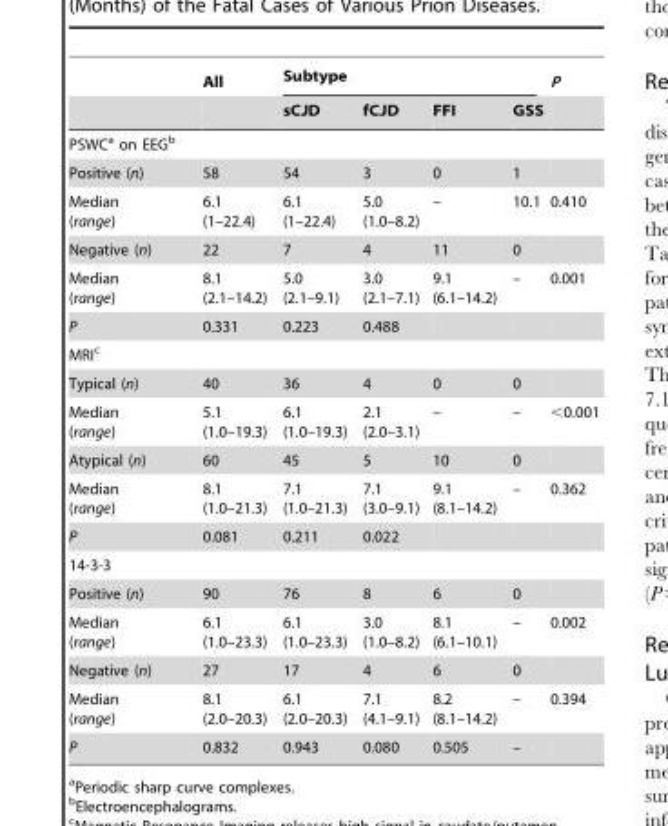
<table><thead><tr><td rowspan="2"></td><td rowspan="2">All</td><td colspan="4">Subtype</td><td rowspan="2">P</td></tr><tr><td>sCJD</td><td>fCJD</td><td>FFI</td><td>GSS</td></tr></thead><tbody><tr><td colspan="7">PSWC<sup>a</sup> on EEG<sup>b</sup></td></tr><tr><td>Positive (n)</td><td>58</td><td>54</td><td>3</td><td>0</td><td>1</td><td></td></tr><tr><td>Median (range)</td><td>6.1 (1–22.4)</td><td>6.1 (1–22.4)</td><td>5.0 (1.0–8.2)</td><td>–</td><td>10.1</td><td>0.410</td></tr><tr><td>Negative (n)</td><td>22</td><td>7</td><td>4</td><td>11</td><td>0</td><td></td></tr><tr><td>Median (range)</td><td>8.1 (2.1–14.2)</td><td>5.0 (2.1–9.1)</td><td>3.0 (2.1–7.1)</td><td>9.1 (6.1–14.2)</td><td>–</td><td>0.001</td></tr><tr><td>P</td><td>0.331</td><td>0.223</td><td>0.488</td><td></td><td></td><td></td></tr><tr><td colspan="7">MRI<sup>c</sup></td></tr><tr><td>Typical (n)</td><td>40</td><td>36</td><td>4</td><td>0</td><td>0</td><td></td></tr><tr><td>Median (range)</td><td>5.1 (1.0–19.3)</td><td>6.1 (1.0–19.3)</td><td>2.1 (2.0–3.1)</td><td>–</td><td>–</td><td>&lt;0.001</td></tr><tr><td>Atypical (n)</td><td>60</td><td>45</td><td>5</td><td>10</td><td>0</td><td></td></tr><tr><td>Median (range)</td><td>8.1 (1.0–21.3)</td><td>7.1 (1.0–21.3)</td><td>7.1 (3.0–9.1)</td><td>9.1 (8.1–14.2)</td><td>–</td><td>0.362</td></tr><tr><td>P</td><td>0.081</td><td>0.211</td><td>0.022</td><td></td><td></td><td></td></tr><tr><td colspan="7">14-3-3</td></tr><tr><td>Positive (n)</td><td>90</td><td>76</td><td>8</td><td>6</td><td>0</td><td></td></tr><tr><td>Median (range)</td><td>6.1 (1.0–23.3)</td><td>6.1 (1.0–23.3)</td><td>3.0 (1.0–8.2)</td><td>8.1 (6.1–10.1)</td><td>–</td><td>0.002</td></tr><tr><td>Negative (n)</td><td>27</td><td>17</td><td>4</td><td>6</td><td>0</td><td></td></tr><tr><td>Median (range)</td><td>8.1 (2.0–20.3)</td><td>6.1 (2.0–20.3)</td><td>7.1 (4.1–9.1)</td><td>8.2 (8.1–14.2)</td><td>–</td><td>0.394</td></tr><tr><td>P</td><td>0.832</td><td>0.943</td><td>0.080</td><td>0.505</td><td>–</td><td></td></tr></tbody></table>